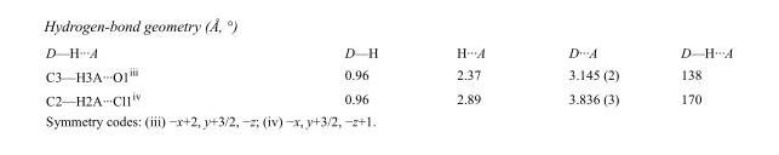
<table><tbody><tr><td>D—H···A</td><td>D—H</td><td>H···A</td><td>D···A</td><td>D—H···A</td></tr><tr><td>C3—H3A···O1<sup>iii</sup></td><td>0.96</td><td>2.37</td><td>3.145 (2)</td><td>138</td></tr><tr><td>C2—H2A···Cl1<sup>iv</sup></td><td>0.96</td><td>2.89</td><td>3.836 (3)</td><td>170</td></tr></tbody></table>